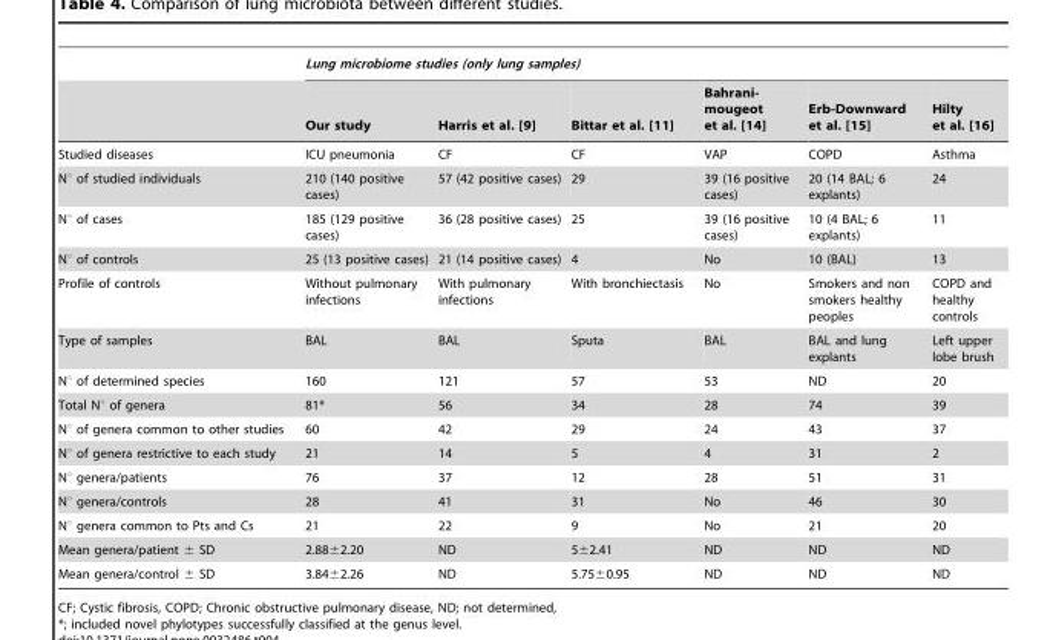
<table><thead><tr><td rowspan="2"></td><td colspan="6">Lung microbiome studies (only lung samples)</td></tr><tr><td>Our study</td><td>Harris et al. [9]</td><td>Bittar et al. [11]</td><td>Bahrani- mougeot et al. [14]</td><td>Erb-Downward et al. [15]</td><td>Hilty et al. [16]</td></tr></thead><tbody><tr><td>Studied diseases</td><td>ICU pneumonia</td><td>CF</td><td>CF</td><td>VAP</td><td>COPD</td><td>Asthma</td></tr><tr><td>N° of studied individuals</td><td>210 (140 positive cases)</td><td>57 (42 positive cases)</td><td>29</td><td>39 (16 positive cases)</td><td>20 (14 BAL; 6 explants)</td><td>24</td></tr><tr><td>N° of cases</td><td>185 (129 positive cases)</td><td>36 (28 positive cases)</td><td>25</td><td>39 (16 positive cases)</td><td>10 (4 BAL; 6 explants)</td><td>11</td></tr><tr><td>N° of controls</td><td>25 (13 positive cases)</td><td>21 (14 positive cases)</td><td>4</td><td>No</td><td>10 (BAL)</td><td>13</td></tr><tr><td>Profile of controls</td><td>Without pulmonary infections</td><td>With pulmonary infections</td><td>With bronchiectasis</td><td>No</td><td>Smokers and non smokers healthy peoples</td><td>COPD and healthy controls</td></tr><tr><td>Type of samples</td><td>BAL</td><td>BAL</td><td>Sputa</td><td>BAL</td><td>BAL and lung explants</td><td>Left upper lobe brush</td></tr><tr><td>N° of determined species</td><td>160</td><td>121</td><td>57</td><td>53</td><td>ND</td><td>20</td></tr><tr><td>Total N° of genera</td><td>81*</td><td>56</td><td>34</td><td>28</td><td>74</td><td>39</td></tr><tr><td>N° of genera common to other studies</td><td>60</td><td>42</td><td>29</td><td>24</td><td>43</td><td>37</td></tr><tr><td>N° of genera restrictive to each study</td><td>21</td><td>14</td><td>5</td><td>4</td><td>31</td><td>2</td></tr><tr><td>N° genera/patients</td><td>76</td><td>37</td><td>12</td><td>28</td><td>51</td><td>31</td></tr><tr><td>N° genera/controls</td><td>28</td><td>41</td><td>31</td><td>No</td><td>46</td><td>30</td></tr><tr><td>N° genera common to Pts and Cs</td><td>21</td><td>22</td><td>9</td><td>No</td><td>21</td><td>20</td></tr><tr><td>Mean genera/patient ± SD</td><td>2.88±2.20</td><td>ND</td><td>5±2.41</td><td>ND</td><td>ND</td><td>ND</td></tr><tr><td>Mean genera/control ± SD</td><td>3.84±2.26</td><td>ND</td><td>5.75±0.95</td><td>ND</td><td>ND</td><td>ND</td></tr></tbody></table>